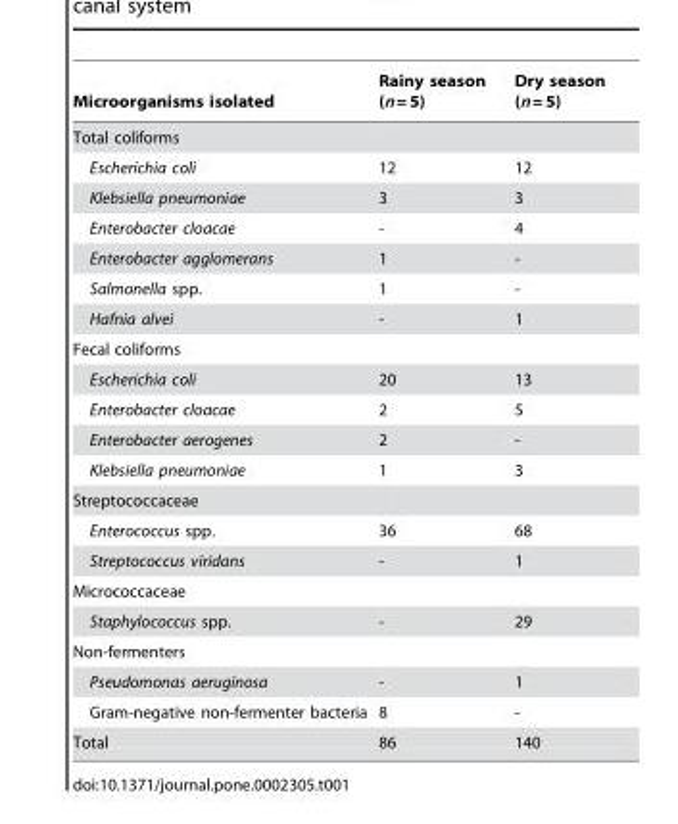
<table><thead><tr><td>Microorganisms isolated</td><td>Rainy season (n = 5)</td><td>Dry season (n = 5)</td></tr></thead><tbody><tr><td colspan="3">Total coliforms</td></tr><tr><td>Escherichia coli</td><td>12</td><td>12</td></tr><tr><td>Klebsiella pneumoniae</td><td>3</td><td>3</td></tr><tr><td>Enterobacter cloacae</td><td>-</td><td>4</td></tr><tr><td>Enterobacter agglomerans</td><td>1</td><td>-</td></tr><tr><td>Salmonella spp.</td><td>1</td><td>-</td></tr><tr><td>Hafnia alvei</td><td>-</td><td>1</td></tr><tr><td colspan="3">Fecal coliforms</td></tr><tr><td>Escherichia coli</td><td>20</td><td>13</td></tr><tr><td>Enterobacter cloacae</td><td>2</td><td>5</td></tr><tr><td>Enterobacter aerogenes</td><td>2</td><td>-</td></tr><tr><td>Klebsiella pneumoniae</td><td>1</td><td>3</td></tr><tr><td colspan="3">Streptococcaceae</td></tr><tr><td>Enterococcus spp.</td><td>36</td><td>68</td></tr><tr><td>Streptococcus viridans</td><td>-</td><td>1</td></tr><tr><td colspan="3">Micrococcaceae</td></tr><tr><td>Staphylococcus spp.</td><td>-</td><td>29</td></tr><tr><td colspan="3">Non-fermenters</td></tr><tr><td>Pseudomonas aeruginosa</td><td>-</td><td>1</td></tr><tr><td>Gram-negative non-fermenter bacteria</td><td>8</td><td>-</td></tr><tr><td>Total</td><td>86</td><td>140</td></tr></tbody></table>